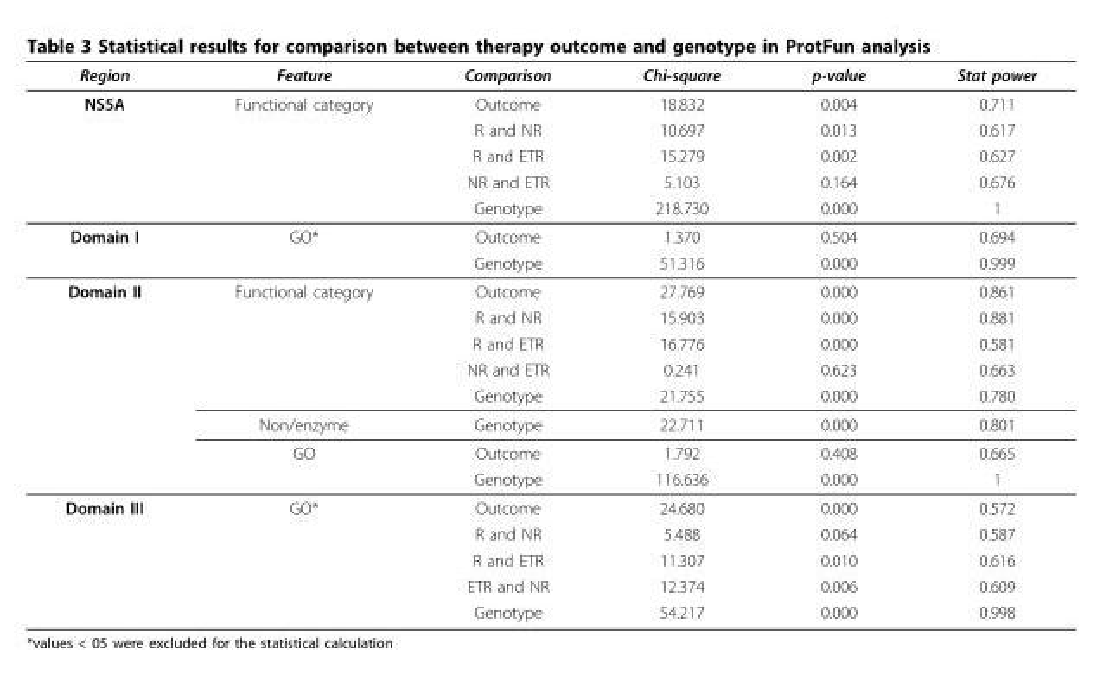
<table><thead><tr><td>Region</td><td>Feature</td><td>Comparison</td><td>Chi-square</td><td>p-value</td><td>Stat power</td></tr></thead><tbody><tr><td rowspan="5">NS5A</td><td>Functional category</td><td>Outcome</td><td>18.832</td><td>0.004</td><td>0.711</td></tr><tr><td></td><td>R and NR</td><td>10.697</td><td>0.013</td><td>0.617</td></tr><tr><td></td><td>R and ETR</td><td>15.279</td><td>0.002</td><td>0.627</td></tr><tr><td></td><td>NR and ETR</td><td>5.103</td><td>0.164</td><td>0.676</td></tr><tr><td></td><td>Genotype</td><td>218.730</td><td>0.000</td><td>1</td></tr><tr><td rowspan="2">Domain I</td><td>GO*</td><td>Outcome</td><td>1.370</td><td>0.504</td><td>0.694</td></tr><tr><td></td><td>Genotype</td><td>51.316</td><td>0.000</td><td>0.999</td></tr><tr><td rowspan="8">Domain II</td><td>Functional category</td><td>Outcome</td><td>27.769</td><td>0.000</td><td>0.861</td></tr><tr><td></td><td>R and NR</td><td>15.903</td><td>0.000</td><td>0.881</td></tr><tr><td></td><td>R and ETR</td><td>16.776</td><td>0.000</td><td>0.581</td></tr><tr><td></td><td>NR and ETR</td><td>0.241</td><td>0.623</td><td>0.663</td></tr><tr><td></td><td>Genotype</td><td>21.755</td><td>0.000</td><td>0.780</td></tr><tr><td>Non/enzyme</td><td>Genotype</td><td>22.711</td><td>0.000</td><td>0.801</td></tr><tr><td>GO</td><td>Outcome</td><td>1.792</td><td>0.408</td><td>0.665</td></tr><tr><td></td><td>Genotype</td><td>116.636</td><td>0.000</td><td>1</td></tr><tr><td rowspan="5">Domain III</td><td>GO*</td><td>Outcome</td><td>24.680</td><td>0.000</td><td>0.572</td></tr><tr><td></td><td>R and NR</td><td>5.488</td><td>0.064</td><td>0.587</td></tr><tr><td></td><td>R and ETR</td><td>11.307</td><td>0.010</td><td>0.616</td></tr><tr><td></td><td>ETR and NR</td><td>12.374</td><td>0.006</td><td>0.609</td></tr><tr><td></td><td>Genotype</td><td>54.217</td><td>0.000</td><td>0.998</td></tr></tbody></table>